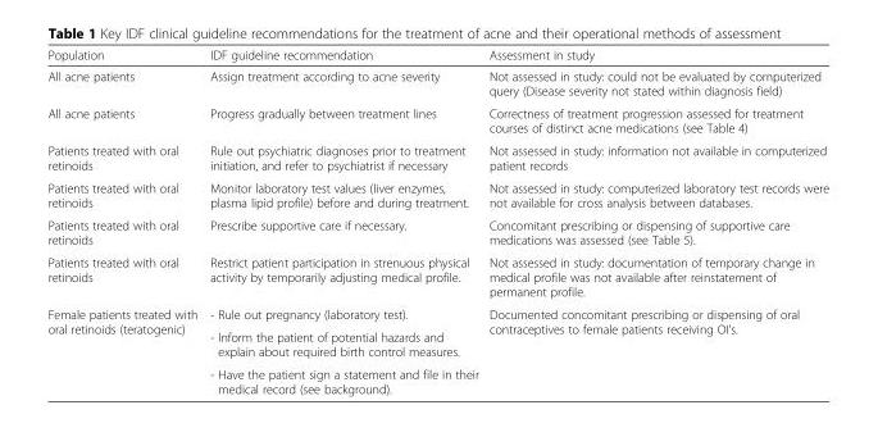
<table><thead><tr><td>Population</td><td>IDF guideline recommendation</td><td>Assessment in study</td></tr></thead><tbody><tr><td>All acne patients</td><td>Assign treatment according to acne severity</td><td>Not assessed in study: could not be evaluated by computerized query (Disease severity not stated within diagnosis field)</td></tr><tr><td>All acne patients</td><td>Progress gradually between treatment lines</td><td>Correctness of treatment progression assessed for treatment courses of distinct acne medications (see Table 4)</td></tr><tr><td>Patients treated with oral retinoids</td><td>Rule out psychiatric diagnoses prior to treatment initiation, and refer to psychiatrist if necessary</td><td>Not assessed in study: information not available in computerized patient records</td></tr><tr><td>Patients treated with oral retinoids</td><td>Monitor laboratory test values (liver enzymes, plasma lipid profile) before and during treatment.</td><td>Not assessed in study: computerized laboratory test records were not available for cross analysis between databases.</td></tr><tr><td>Patients treated with oral retinoids</td><td>Prescribe supportive care if necessary.</td><td>Concomitant prescribing or dispensing of supportive care medications was assessed (see Table 5).</td></tr><tr><td>Patients treated with oral retinoids</td><td>Restrict patient participation in strenuous physical activity by temporarily adjusting medical profile.</td><td>Not assessed in study: documentation of temporary change in medical profile was not available after reinstatement of permanent profile.</td></tr><tr><td rowspan="3">Female patients treated with oral retinoids (teratogenic)</td><td>- Rule out pregnancy (laboratory test).</td><td rowspan="3">Documented concomitant prescribing or dispensing of oral contraceptives to female patients receiving OI’s.</td></tr><tr><td>- Inform the patient of potential hazards and explain about required birth control measures.</td></tr><tr><td>- Have the patient sign a statement and file in their medical record (see background).</td></tr></tbody></table>